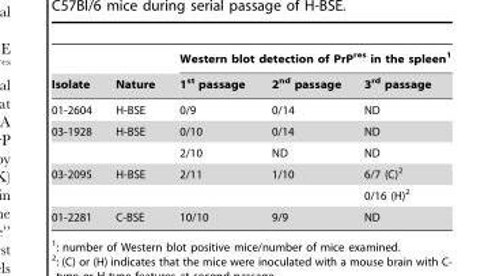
<table><thead><tr><td rowspan="2">Isolate</td><td rowspan="2">Nature</td><td colspan="3">Western blot detection of PrP<sup>res</sup> in the spleen<sup>1</sup></td></tr><tr><td>1<sup>st</sup> passage</td><td>2<sup>nd</sup> passage</td><td>3<sup>rd</sup> passage</td></tr></thead><tbody><tr><td>01-2604</td><td>H-BSE</td><td>0/9</td><td>0/14</td><td>ND</td></tr><tr><td rowspan="2">03-1928</td><td>H-BSE</td><td>0/10</td><td>0/14</td><td>ND</td></tr><tr><td></td><td>2/10</td><td>ND</td><td>ND</td></tr><tr><td rowspan="2">03-2095</td><td>H-BSE</td><td>2/11</td><td>1/10</td><td>6/7 (C)<sup>2</sup></td></tr><tr><td></td><td></td><td></td><td>0/16 (H)<sup>2</sup></td></tr><tr><td>01-2281</td><td>C-BSE</td><td>10/10</td><td>9/9</td><td>ND</td></tr></tbody></table>